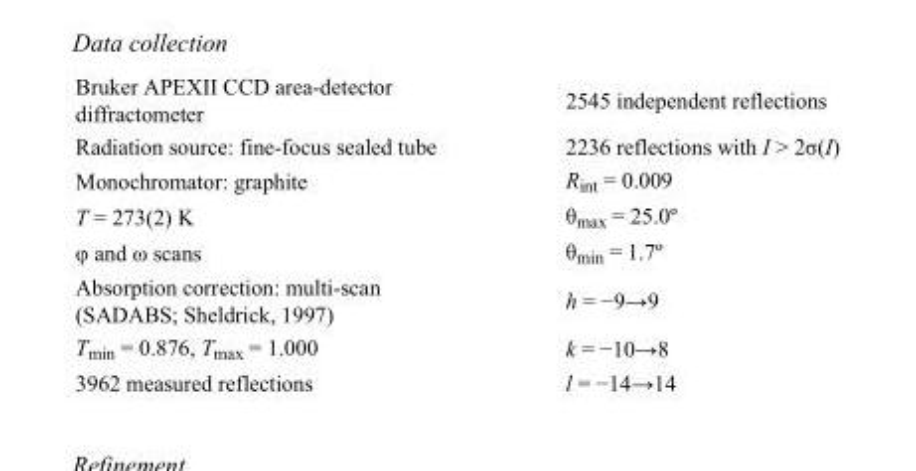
<table><tbody><tr><td>Bruker APEXII CCD area-detector diffractometer</td><td>2545 independent reflections</td></tr><tr><td>Radiation source: fine-focus sealed tube</td><td>2236 reflections with I &gt; 2σ(I)</td></tr><tr><td>Monochromator: graphite</td><td>R<sub>int</sub> = 0.009</td></tr><tr><td>T = 273(2) K</td><td>θ<sub>max</sub> = 25.0º</td></tr><tr><td>φ and ω scans</td><td>θ<sub>min</sub> = 1.7º</td></tr><tr><td>Absorption correction: multi-scan (SADABS; Sheldrick, 1997)</td><td>h = −9→9</td></tr><tr><td>T<sub>min</sub> = 0.876, T<sub>max</sub> = 1.000</td><td>k = −10→8</td></tr><tr><td>3962 measured reflections</td><td>l = −14→14</td></tr></tbody></table>